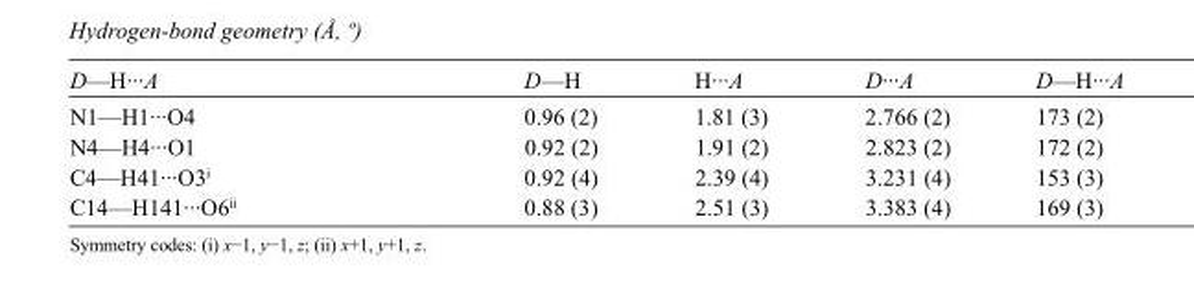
<table><tbody><tr><td>D—H···A</td><td>D—H</td><td>H···A</td><td>D···A</td><td>D—H···A</td></tr><tr><td>N1—H1···O4</td><td>0.96 (2)</td><td>1.81 (3)</td><td>2.766 (2)</td><td>173 (2)</td></tr><tr><td>N4—H4···O1</td><td>0.92 (2)</td><td>1.91 (2)</td><td>2.823 (2)</td><td>172 (2)</td></tr><tr><td>C4—H41···O3<sup>i</sup></td><td>0.92 (4)</td><td>2.39 (4)</td><td>3.231 (4)</td><td>153 (3)</td></tr><tr><td>C14—H141···O6<sup>ii</sup></td><td>0.88 (3)</td><td>2.51 (3)</td><td>3.383 (4)</td><td>169 (3)</td></tr></tbody></table>